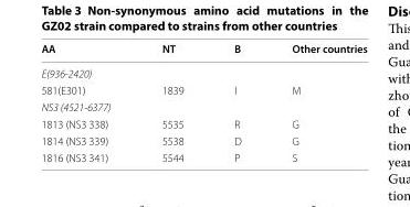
<table><thead><tr><td>AA</td><td>NT</td><td>B</td><td>Other countries</td></tr></thead><tbody><tr><td colspan="4">E(936-2420)</td></tr><tr><td>581(E301)</td><td>1839</td><td>I</td><td>M</td></tr><tr><td colspan="4">NS3 (4521-6377)</td></tr><tr><td>1813 (NS3 338)</td><td>5535</td><td>R</td><td>G</td></tr><tr><td>1814 (NS3 339)</td><td>5538</td><td>D</td><td>G</td></tr><tr><td>1816 (NS3 341)</td><td>5544</td><td>P</td><td>S</td></tr></tbody></table>